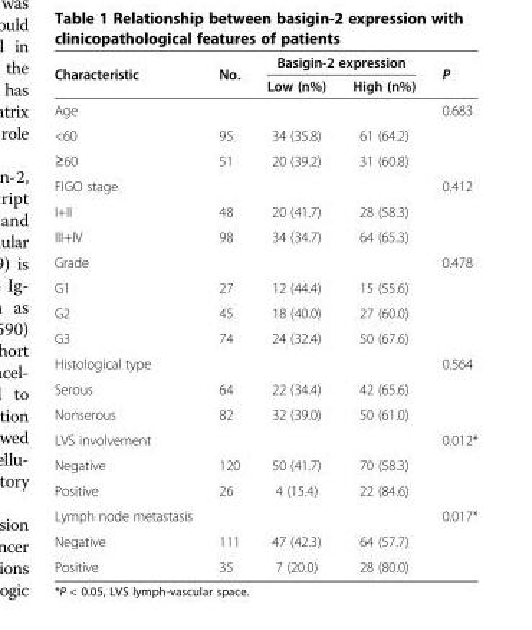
<table><thead><tr><td rowspan="2">Characteristic</td><td rowspan="2">No.</td><td colspan="2">Basigin-2 expression</td><td rowspan="2">P</td></tr><tr><td>Low (n%)</td><td>High (n%)</td></tr></thead><tbody><tr><td>Age</td><td></td><td></td><td></td><td>0.683</td></tr><tr><td>&lt;60</td><td>95</td><td>34 (35.8)</td><td>61 (64.2)</td><td></td></tr><tr><td>≥60</td><td>51</td><td>20 (39.2)</td><td>31 (60.8)</td><td></td></tr><tr><td>FIGO stage</td><td></td><td></td><td></td><td>0.412</td></tr><tr><td>I+II</td><td>48</td><td>20 (41.7)</td><td>28 (58.3)</td><td></td></tr><tr><td>III+IV</td><td>98</td><td>34 (34.7)</td><td>64 (65.3)</td><td></td></tr><tr><td>Grade</td><td></td><td></td><td></td><td>0.478</td></tr><tr><td>G1</td><td>27</td><td>12 (44.4)</td><td>15 (55.6)</td><td></td></tr><tr><td>G2</td><td>45</td><td>18 (40.0)</td><td>27 (60.0)</td><td></td></tr><tr><td>G3</td><td>74</td><td>24 (32.4)</td><td>50 (67.6)</td><td></td></tr><tr><td>Histological type</td><td></td><td></td><td></td><td>0.564</td></tr><tr><td>Serous</td><td>64</td><td>22 (34.4)</td><td>42 (65.6)</td><td></td></tr><tr><td>Nonserous</td><td>82</td><td>32 (39.0)</td><td>50 (61.0)</td><td></td></tr><tr><td>LVS involvement</td><td></td><td></td><td></td><td>0.012*</td></tr><tr><td>Negative</td><td>120</td><td>50 (41.7)</td><td>70 (58.3)</td><td></td></tr><tr><td>Positive</td><td>26</td><td>4 (15.4)</td><td>22 (84.6)</td><td></td></tr><tr><td>Lymph node metastasis</td><td></td><td></td><td></td><td>0.017*</td></tr><tr><td>Negative</td><td>111</td><td>47 (42.3)</td><td>64 (57.7)</td><td></td></tr><tr><td>Positive</td><td>35</td><td>7 (20.0)</td><td>28 (80.0)</td><td></td></tr></tbody></table>